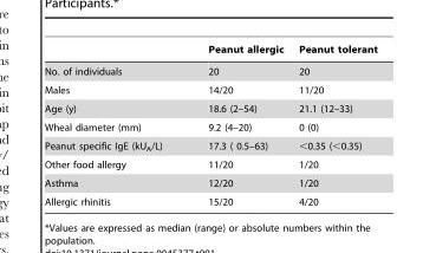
<table><thead><tr><td></td><td>Peanut allergic</td><td>Peanut tolerant</td></tr></thead><tbody><tr><td>No. of individuals</td><td>20</td><td>20</td></tr><tr><td>Males</td><td>14/20</td><td>11/20</td></tr><tr><td>Age (y)</td><td>18.6 (2–54)</td><td>21.1 (12–33)</td></tr><tr><td>Wheal diameter (mm)</td><td>9.2 (4–20)</td><td>0 (0)</td></tr><tr><td>Peanut specific IgE (kU<sub>A</sub>/L)</td><td>17.3 ( 0.5–63)</td><td>&lt;0.35 (&lt;0.35)</td></tr><tr><td>Other food allergy</td><td>11/20</td><td>1/20</td></tr><tr><td>Asthma</td><td>12/20</td><td>1/20</td></tr><tr><td>Allergic rhinitis</td><td>15/20</td><td>4/20</td></tr></tbody></table>